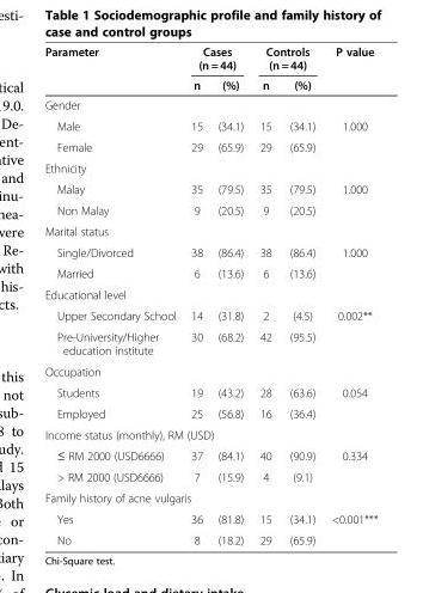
<table><thead><tr><td rowspan="2">Parameter</td><td colspan="2">Cases (n = 44)</td><td colspan="2">Controls (n = 44)</td><td rowspan="2">P value</td></tr><tr><td>n</td><td>(%)</td><td>n</td><td>(%)</td></tr></thead><tbody><tr><td colspan="6">Gender</td></tr><tr><td>Male</td><td>15</td><td>(34.1)</td><td>15</td><td>(34.1)</td><td>1.000</td></tr><tr><td>Female</td><td>29</td><td>(65.9)</td><td>29</td><td>(65.9)</td><td></td></tr><tr><td colspan="6">Ethnicity</td></tr><tr><td>Malay</td><td>35</td><td>(79.5)</td><td>35</td><td>(79.5)</td><td>1.000</td></tr><tr><td>Non Malay</td><td>9</td><td>(20.5)</td><td>9</td><td>(20.5)</td><td></td></tr><tr><td colspan="6">Marital status</td></tr><tr><td>Single/Divorced</td><td>38</td><td>(86.4)</td><td>38</td><td>(86.4)</td><td>1.000</td></tr><tr><td>Married</td><td>6</td><td>(13.6)</td><td>6</td><td>(13.6)</td><td></td></tr><tr><td colspan="6">Educational level</td></tr><tr><td>Upper Secondary School</td><td>14</td><td>(31.8)</td><td>2</td><td>(4.5)</td><td>0.002**</td></tr><tr><td>Pre-University/Higher education institute</td><td>30</td><td>(68.2)</td><td>42</td><td>(95.5)</td><td></td></tr><tr><td colspan="6">Occupation</td></tr><tr><td>Students</td><td>19</td><td>(43.2)</td><td>28</td><td>(63.6)</td><td>0.054</td></tr><tr><td>Employed</td><td>25</td><td>(56.8)</td><td>16</td><td>(36.4)</td><td></td></tr><tr><td colspan="6">Income status (monthly), RM (USD)</td></tr><tr><td>≤ RM 2000 (USD6666)</td><td>37</td><td>(84.1)</td><td>40</td><td>(90.9)</td><td>0.334</td></tr><tr><td>&gt; RM 2000 (USD6666)</td><td>7</td><td>(15.9)</td><td>4</td><td>(9.1)</td><td></td></tr><tr><td colspan="6">Family history of acne vulgaris</td></tr><tr><td>Yes</td><td>36</td><td>(81.8)</td><td>15</td><td>(34.1)</td><td>&lt;0.001***</td></tr><tr><td>No</td><td>8</td><td>(18.2)</td><td>29</td><td>(65.9)</td><td></td></tr></tbody></table>